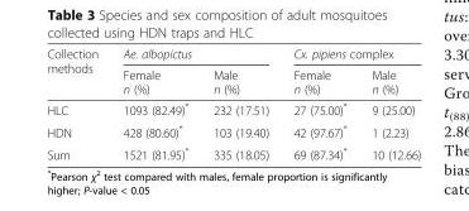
<table><thead><tr><td rowspan="2">Collection methods</td><td colspan="2">Ae. albopictus</td><td colspan="2">Cx. pipiens complex</td></tr><tr><td>Female n (%)</td><td>Male n (%)</td><td>Female n (%)</td><td>Male n (%)</td></tr></thead><tbody><tr><td>HLC</td><td>1093 (82.49)*</td><td>232 (17.51)</td><td>27 (75.00)*</td><td>9 (25.00)</td></tr><tr><td>HDN</td><td>428 (80.60)*</td><td>103 (19.40)</td><td>42 (97.67)*</td><td>1 (2.23)</td></tr><tr><td>Sum</td><td>1521 (81.95)*</td><td>335 (18.05)</td><td>69 (87.34)*</td><td>10 (12.66)</td></tr></tbody></table>